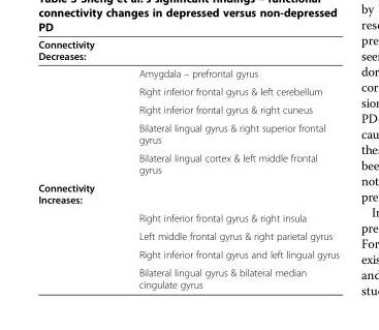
<table><thead><tr><td>Connectivity Decreases:</td><td></td></tr></thead><tbody><tr><td></td><td>Amygdala – prefrontal gyrus</td></tr><tr><td></td><td>Right inferior frontal gyrus &amp; left cerebellum</td></tr><tr><td></td><td>Right inferior frontal gyrus &amp; right cuneus</td></tr><tr><td></td><td>Bilateral lingual gyrus &amp; right superior frontal gyrus</td></tr><tr><td></td><td>Bilateral lingual cortex &amp; left middle frontal gyrus</td></tr><tr><td colspan="2">Connectivity Increases:</td></tr><tr><td></td><td>Right inferior frontal gyrus &amp; right insula</td></tr><tr><td></td><td>Left middle frontal gyrus &amp; right parietal gyrus</td></tr><tr><td></td><td>Right inferior frontal gyrus and left lingual gyrus</td></tr><tr><td></td><td>Bilateral lingual gyrus &amp; bilateral median cingulate gyrus</td></tr></tbody></table>